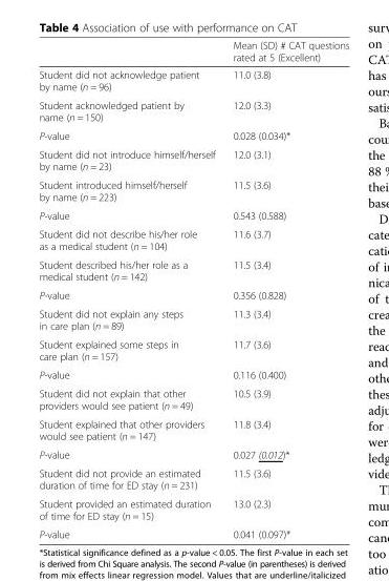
<table><thead><tr><td></td><td>Mean (SD) # CAT questions rated at 5 (Excellent)</td></tr></thead><tbody><tr><td>Student did not acknowledge patient by name (n = 96)</td><td>11.0 (3.8)</td></tr><tr><td>Student acknowledged patient by name (n = 150)</td><td>12.0 (3.3)</td></tr><tr><td>P-value</td><td>0.028 (0.034)*</td></tr><tr><td>Student did not introduce himself/herself by name (n = 23)</td><td>12.0 (3.1)</td></tr><tr><td>Student introduced himself/herself by name (n = 223)</td><td>11.5 (3.6)</td></tr><tr><td>P-value</td><td>0.543 (0.588)</td></tr><tr><td>Student did not describe his/her role as a medical student (n = 104)</td><td>11.6 (3.7)</td></tr><tr><td>Student described his/her role as a medical student (n = 142)</td><td>11.5 (3.4)</td></tr><tr><td>P-value</td><td>0.356 (0.828)</td></tr><tr><td>Student did not explain any steps in care plan (n = 89)</td><td>11.3 (3.4)</td></tr><tr><td>Student explained some steps in care plan (n = 157)</td><td>11.7 (3.6)</td></tr><tr><td>P-value</td><td>0.116 (0.400)</td></tr><tr><td>Student did not explain that other providers would see patient (n = 49)</td><td>10.5 (3.9)</td></tr><tr><td>Student explained that other providers would see patient (n = 147)</td><td>11.8 (3.4)</td></tr><tr><td>P-value</td><td>0.027 (0.012)*</td></tr><tr><td>Student did not provide an estimated duration of time for ED stay (n = 231)</td><td>11.5 (3.6)</td></tr><tr><td>Student provided an estimated duration of time for ED stay (n = 15)</td><td>13.0 (2.3)</td></tr><tr><td>P-value</td><td>0.041 (0.097)*</td></tr></tbody></table>